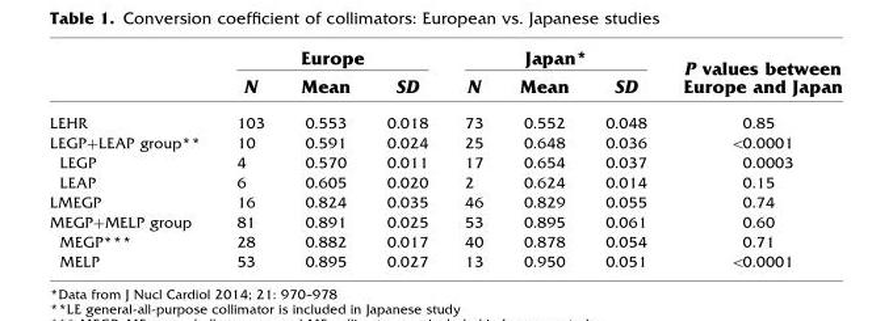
<table><thead><tr><td rowspan="2"></td><td colspan="3">Europe</td><td colspan="3">Japan*</td><td rowspan="2">P values between Europe and Japan</td></tr><tr><td>N</td><td>Mean</td><td>SD</td><td>N</td><td>Mean</td><td>SD</td></tr></thead><tbody><tr><td>LEHR</td><td>103</td><td>0.553</td><td>0.018</td><td>73</td><td>0.552</td><td>0.048</td><td>0.85</td></tr><tr><td>LEGP+LEAP group**</td><td>10</td><td>0.591</td><td>0.024</td><td>25</td><td>0.648</td><td>0.036</td><td>&lt;0.0001</td></tr><tr><td>LEGP</td><td>4</td><td>0.570</td><td>0.011</td><td>17</td><td>0.654</td><td>0.037</td><td>0.0003</td></tr><tr><td>LEAP</td><td>6</td><td>0.605</td><td>0.020</td><td>2</td><td>0.624</td><td>0.014</td><td>0.15</td></tr><tr><td>LMEGP</td><td>16</td><td>0.824</td><td>0.035</td><td>46</td><td>0.829</td><td>0.055</td><td>0.74</td></tr><tr><td>MEGP+MELP group</td><td>81</td><td>0.891</td><td>0.025</td><td>53</td><td>0.895</td><td>0.061</td><td>0.60</td></tr><tr><td>MEGP***</td><td>28</td><td>0.882</td><td>0.017</td><td>40</td><td>0.878</td><td>0.054</td><td>0.71</td></tr><tr><td>MELP</td><td>53</td><td>0.895</td><td>0.027</td><td>13</td><td>0.950</td><td>0.051</td><td>&lt;0.0001</td></tr></tbody></table>